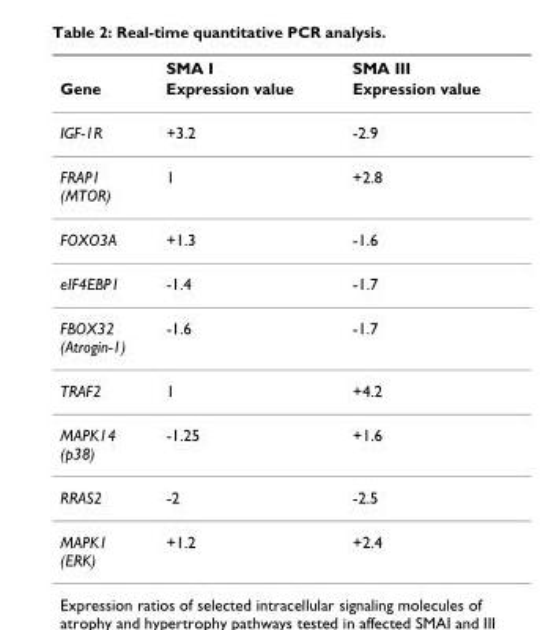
<table><thead><tr><td rowspan="2">Gene</td><td rowspan="2">SMA I Expression value</td><td rowspan="2">SMA III Expression value</td></tr><tr></tr></thead><tbody><tr><td>IGF-1R</td><td>+3.2</td><td>-2.9</td></tr><tr><td>FRAP1 (MTOR)</td><td>1</td><td>+2.8</td></tr><tr><td>FOXO3A</td><td>+1.3</td><td>-1.6</td></tr><tr><td>eIF4EBP1</td><td>-1.4</td><td>-1.7</td></tr><tr><td>FBOX32 (Atrogin-1)</td><td>-1.6</td><td>-1.7</td></tr><tr><td>TRAF2</td><td>1</td><td>+4.2</td></tr><tr><td>MAPK14 (p38)</td><td>-1.25</td><td>+1.6</td></tr><tr><td>RRAS2</td><td>-2</td><td>-2.5</td></tr><tr><td>MAPK1 (ERK)</td><td>+1.2</td><td>+2.4</td></tr></tbody></table>